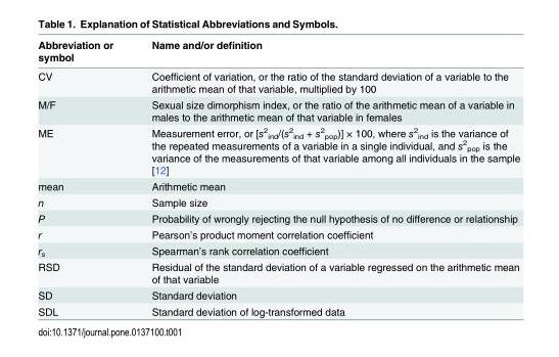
<table><thead><tr><td>Abbreviation or symbol</td><td>Name and/or definition</td></tr></thead><tbody><tr><td>CV</td><td>Coefficient of variation, or the ratio of the standard deviation of a variable to the arithmetic mean of that variable, multiplied by 100</td></tr><tr><td>M/F</td><td>Sexual size dimorphism index, or the ratio of the arithmetic mean of a variable in males to the arithmetic mean of that variable in females</td></tr><tr><td>ME</td><td>Measurement error, or [s<sup>2</sup> <sub>ind</sub>/(s<sup>2</sup> <sub>ind</sub> + s<sup>2</sup> <sub>pop</sub>)] × 100, where s<sup>2</sup> <sub>ind</sub> is the variance of the repeated measurements of a variable in a single individual, and s<sup>2</sup> <sub>pop</sub> is the variance of the measurements of that variable among all individuals in the sample [12]</td></tr><tr><td>mean</td><td>Arithmetic mean</td></tr><tr><td>n</td><td>Sample size</td></tr><tr><td>P</td><td>Probability of wrongly rejecting the null hypothesis of no difference or relationship</td></tr><tr><td>r</td><td>Pearson’s product moment correlation coefficient</td></tr><tr><td>r<sub>s</sub></td><td>Spearman’s rank correlation coefficient</td></tr><tr><td>RSD</td><td>Residual of the standard deviation of a variable regressed on the arithmetic mean of that variable</td></tr><tr><td>SD</td><td>Standard deviation</td></tr><tr><td>SDL</td><td>Standard deviation of log-transformed data</td></tr></tbody></table>